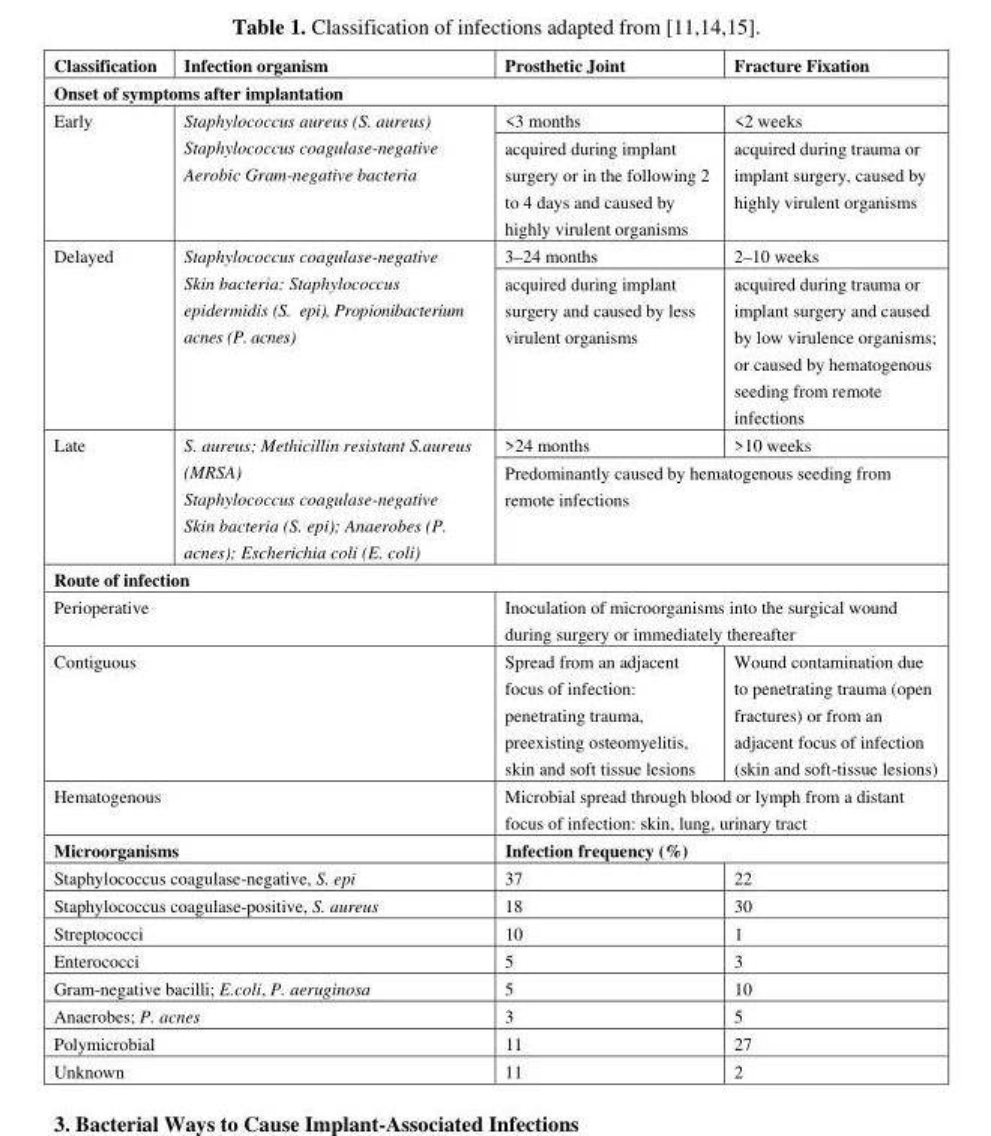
<table><thead><tr><td>Classification</td><td>Infection organism</td><td>Prosthetic Joint</td><td>Fracture Fixation</td></tr></thead><tbody><tr><td colspan="4">Onset of symptoms after implantation</td></tr><tr><td rowspan="2">Early</td><td rowspan="2">Staphylococcus aureus (S. aureus) Staphylococcus coagulase-negative Aerobic Gram-negative bacteria</td><td>&lt;3 months</td><td>&lt;2 weeks</td></tr><tr><td>acquired during implant surgery or in the following 2 to 4 days and caused by highly virulent organisms</td><td>acquired during trauma or implant surgery, caused by highly virulent organisms</td></tr><tr><td rowspan="2">Delayed</td><td rowspan="2">Staphylococcus coagulase-negative Skin bacteria: Staphylococcus epidermidis (S. epi), Propionibacterium acnes (P. acnes)</td><td>3–24 months</td><td>2–10 weeks</td></tr><tr><td>acquired during implant surgery and caused by less virulent organisms</td><td>acquired during trauma or implant surgery and caused by low virulence organisms; or caused by hematogenous seeding from remote infections</td></tr><tr><td rowspan="2">Late</td><td rowspan="2">S. aureus; Methicillin resistant S.aureus (MRSA) Staphylococcus coagulase-negative Skin bacteria (S. epi); Anaerobes (P. acnes); Escherichia coli (E. coli)</td><td>&gt;24 months</td><td>&gt;10 weeks</td></tr><tr><td colspan="2">Predominantly caused by hematogenous seeding from remote infections</td></tr><tr><td colspan="4">Route of infection</td></tr><tr><td colspan="2">Perioperative</td><td colspan="2">Inoculation of microorganisms into the surgical wound during surgery or immediately thereafter</td></tr><tr><td colspan="2">Contiguous</td><td>Spread from an adjacent focus of infection: penetrating trauma, preexisting osteomyelitis, skin and soft tissue lesions</td><td>Wound contamination due to penetrating trauma (open fractures) or from an adjacent focus of infection (skin and soft-tissue lesions)</td></tr><tr><td colspan="2">Hematogenous</td><td colspan="2">Microbial spread through blood or lymph from a distant focus of infection: skin, lung, urinary tract</td></tr><tr><td colspan="2">Microorganisms</td><td colspan="2">Infection frequency (%)</td></tr><tr><td colspan="2">Staphylococcus coagulase-negative, S. epi</td><td>37</td><td>22</td></tr><tr><td colspan="2">Staphylococcus coagulase-positive, S. aureus</td><td>18</td><td>30</td></tr><tr><td colspan="2">Streptococci</td><td>10</td><td>1</td></tr><tr><td colspan="2">Enterococci</td><td>5</td><td>3</td></tr><tr><td colspan="2">Gram-negative bacilli; E.coli, P. aeruginosa</td><td>5</td><td>10</td></tr><tr><td colspan="2">Anaerobes; P. acnes</td><td>3</td><td>5</td></tr><tr><td colspan="2">Polymicrobial</td><td>11</td><td>27</td></tr><tr><td colspan="2">Unknown</td><td>11</td><td>2</td></tr></tbody></table>